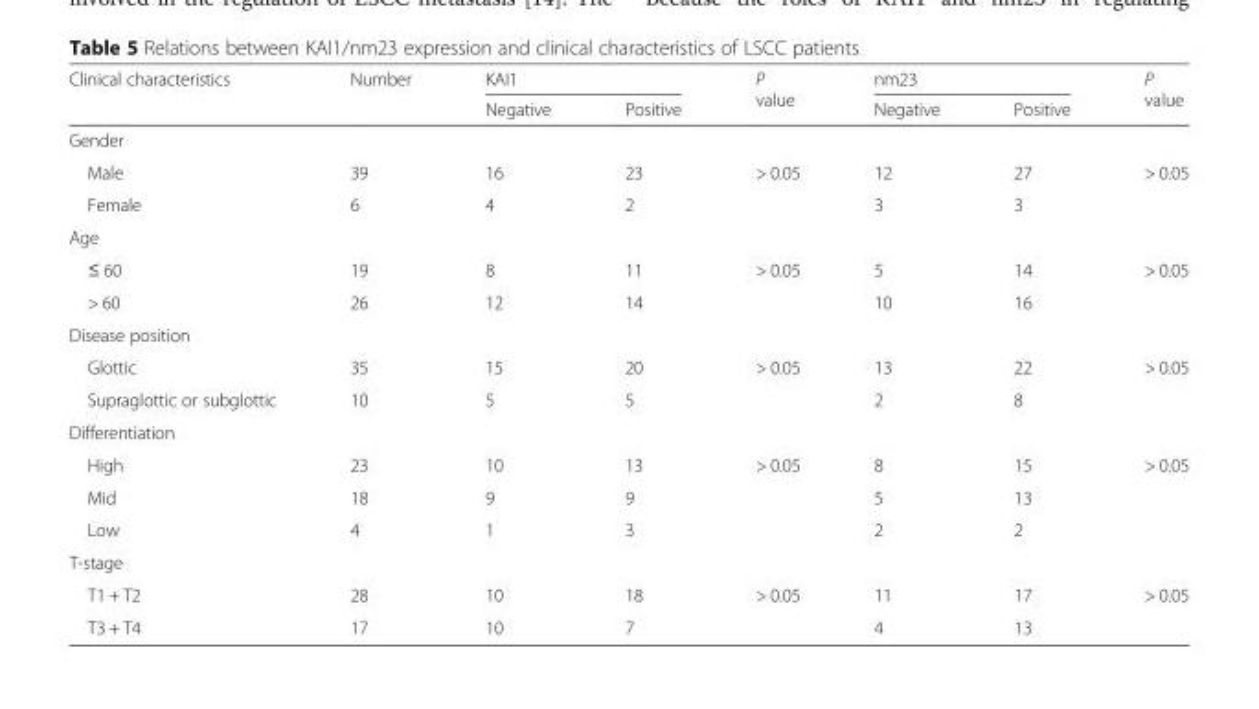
<table><thead><tr><td rowspan="2">Clinical characteristics</td><td rowspan="2">Number</td><td colspan="2">KAI1</td><td rowspan="2">P value</td><td colspan="2">nm23</td><td rowspan="2">P value</td></tr><tr><td>Negative</td><td>Positive</td><td>Negative</td><td>Positive</td></tr></thead><tbody><tr><td colspan="8">Gender</td></tr><tr><td>Male</td><td>39</td><td>16</td><td>23</td><td rowspan="2">&gt; 0.05</td><td>12</td><td>27</td><td rowspan="2">&gt; 0.05</td></tr><tr><td>Female</td><td>6</td><td>4</td><td>2</td><td>3</td><td>3</td></tr><tr><td colspan="8">Age</td></tr><tr><td>≤ 60</td><td>19</td><td>8</td><td>11</td><td rowspan="2">&gt; 0.05</td><td>5</td><td>14</td><td rowspan="2">&gt; 0.05</td></tr><tr><td>&gt; 60</td><td>26</td><td>12</td><td>14</td><td>10</td><td>16</td></tr><tr><td colspan="8">Disease position</td></tr><tr><td>Glottic</td><td>35</td><td>15</td><td>20</td><td rowspan="2">&gt; 0.05</td><td>13</td><td>22</td><td rowspan="2">&gt; 0.05</td></tr><tr><td>Supraglottic or subglottic</td><td>10</td><td>5</td><td>5</td><td>2</td><td>8</td></tr><tr><td colspan="8">Differentiation</td></tr><tr><td>High</td><td>23</td><td>10</td><td>13</td><td rowspan="3">&gt; 0.05</td><td>8</td><td>15</td><td rowspan="3">&gt; 0.05</td></tr><tr><td>Mid</td><td>18</td><td>9</td><td>9</td><td>5</td><td>13</td></tr><tr><td>Low</td><td>4</td><td>1</td><td>3</td><td>2</td><td>2</td></tr><tr><td colspan="8">T-stage</td></tr><tr><td>T1 + T2</td><td>28</td><td>10</td><td>18</td><td rowspan="2">&gt; 0.05</td><td>11</td><td>17</td><td rowspan="2">&gt; 0.05</td></tr><tr><td>T3 + T4</td><td>17</td><td>10</td><td>7</td><td>4</td><td>13</td></tr></tbody></table>